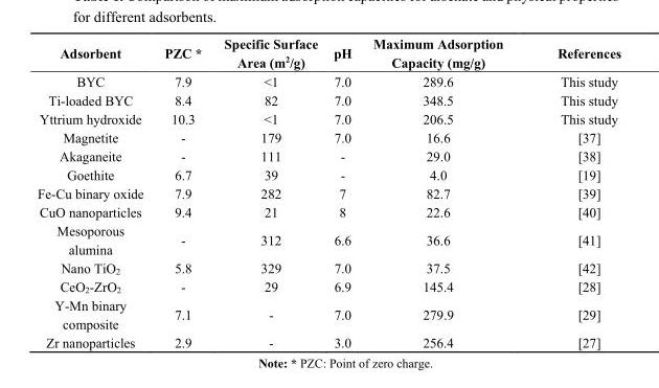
<table><thead><tr><td>Adsorbent</td><td>PZC *</td><td>Specific Surface Area (m<sup>2</sup>/g)</td><td>pH</td><td>Maximum Adsorption Capacity (mg/g)</td><td>References</td></tr></thead><tbody><tr><td>BYC</td><td>7.9</td><td>&lt;1</td><td>7.0</td><td>289.6</td><td>This study</td></tr><tr><td>Ti-loaded BYC</td><td>8.4</td><td>82</td><td>7.0</td><td>348.5</td><td>This study</td></tr><tr><td>Yttrium hydroxide</td><td>10.3</td><td>&lt;1</td><td>7.0</td><td>206.5</td><td>This study</td></tr><tr><td>Magnetite</td><td>-</td><td>179</td><td>7.0</td><td>16.6</td><td>[37]</td></tr><tr><td>Akaganeite</td><td>-</td><td>111</td><td>-</td><td>29.0</td><td>[38]</td></tr><tr><td>Goethite</td><td>6.7</td><td>39</td><td>-</td><td>4.0</td><td>[19]</td></tr><tr><td>Fe-Cu binary oxide</td><td>7.9</td><td>282</td><td>7</td><td>82.7</td><td>[39]</td></tr><tr><td>CuO nanoparticles</td><td>9.4</td><td>21</td><td>8</td><td>22.6</td><td>[40]</td></tr><tr><td>Mesoporous alumina</td><td>-</td><td>312</td><td>6.6</td><td>36.6</td><td>[41]</td></tr><tr><td>Nano TiO<sub>2</sub></td><td>5.8</td><td>329</td><td>7.0</td><td>37.5</td><td>[42]</td></tr><tr><td>CeO<sub>2</sub>-ZrO<sub>2</sub></td><td>-</td><td>29</td><td>6.9</td><td>145.4</td><td>[28]</td></tr><tr><td>Y-Mn binary composite</td><td>7.1</td><td>-</td><td>7.0</td><td>279.9</td><td>[29]</td></tr><tr><td>Zr nanoparticles</td><td>2.9</td><td>-</td><td>3.0</td><td>256.4</td><td>[27]</td></tr></tbody></table>